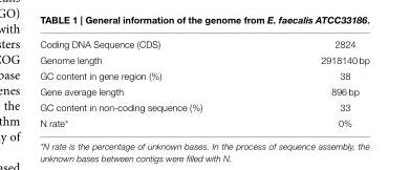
<table><tbody><tr><td>Coding DNA Sequence (CDS)</td><td>2824</td></tr><tr><td>Genome length</td><td>2918140 bp</td></tr><tr><td>GC content in gene region (%)</td><td>38</td></tr><tr><td>Gene average length</td><td>896 bp</td></tr><tr><td>GC content in non-coding sequence (%)</td><td>33</td></tr><tr><td>N rate*</td><td>0%</td></tr></tbody></table>